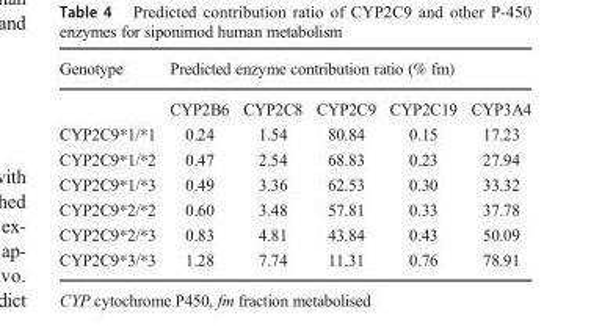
<table><thead><tr><td rowspan="2">Genotype</td><td colspan="5">Predicted enzyme contribution ratio (% fm)</td></tr><tr><td>CYP2B6</td><td>CYP2C8</td><td>CYP2C9</td><td>CYP2C19</td><td>CYP3A4</td></tr></thead><tbody><tr><td>CYP2C9*1/*1</td><td>0.24</td><td>1.54</td><td>80.84</td><td>0.15</td><td>17.23</td></tr><tr><td>CYP2C9*1/*2</td><td>0.47</td><td>2.54</td><td>68.83</td><td>0.23</td><td>27.94</td></tr><tr><td>CYP2C9*1/*3</td><td>0.49</td><td>3.36</td><td>62.53</td><td>0.30</td><td>33.32</td></tr><tr><td>CYP2C9*2/*2</td><td>0.60</td><td>3.48</td><td>57.81</td><td>0.33</td><td>37.78</td></tr><tr><td>CYP2C9*2/*3</td><td>0.83</td><td>4.81</td><td>43.84</td><td>0.43</td><td>50.09</td></tr><tr><td>CYP2C9*3/*3</td><td>1.28</td><td>7.74</td><td>11.31</td><td>0.76</td><td>78.91</td></tr></tbody></table>